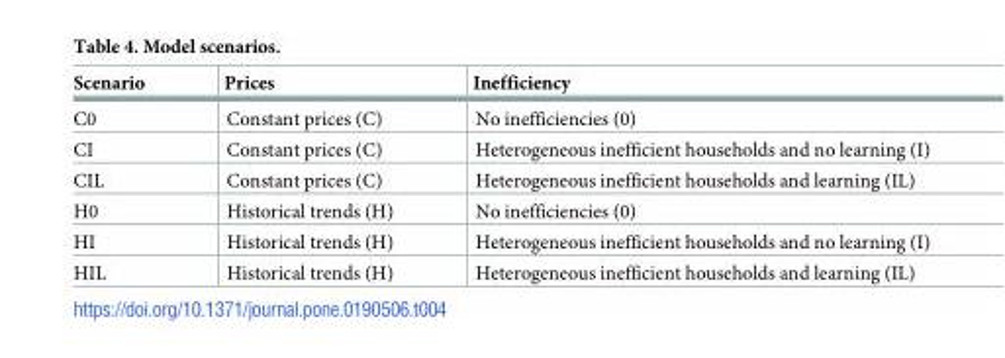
<table><thead><tr><td>Scenario</td><td>Prices</td><td>Inefficiency</td></tr></thead><tbody><tr><td>C0</td><td>Constant prices (C)</td><td>No inefficiencies (0)</td></tr><tr><td>CI</td><td>Constant prices (C)</td><td>Heterogeneous inefficient households and no learning (I)</td></tr><tr><td>CIL</td><td>Constant prices (C)</td><td>Heterogeneous inefficient households and learning (IL)</td></tr><tr><td>H0</td><td>Historical trends (H)</td><td>No inefficiencies (0)</td></tr><tr><td>HI</td><td>Historical trends (H)</td><td>Heterogeneous inefficient households and no learning (I)</td></tr><tr><td>HIL</td><td>Historical trends (H)</td><td>Heterogeneous inefficient households and learning (IL)</td></tr></tbody></table>